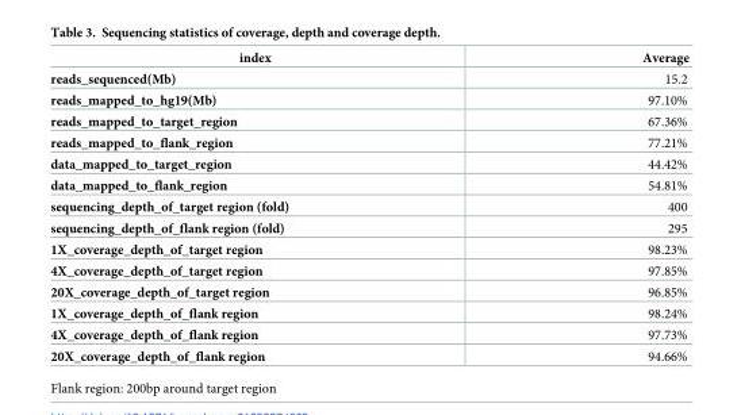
<table><thead><tr><td>index</td><td>Average</td></tr></thead><tbody><tr><td>reads_sequenced(Mb)</td><td>15.2</td></tr><tr><td>reads_mapped_to_hg19(Mb)</td><td>97.10%</td></tr><tr><td>reads_mapped_to_target_region</td><td>67.36%</td></tr><tr><td>reads_mapped_to_flank_region</td><td>77.21%</td></tr><tr><td>data_mapped_to_target_region</td><td>44.42%</td></tr><tr><td>data_mapped_to_flank_region</td><td>54.81%</td></tr><tr><td>sequencing_depth_of_target region (fold)</td><td>400</td></tr><tr><td>sequencing_depth_of_flank region (fold)</td><td>295</td></tr><tr><td>1X_coverage_depth_of_target region</td><td>98.23%</td></tr><tr><td>4X_coverage_depth_of_target region</td><td>97.85%</td></tr><tr><td>20X_coverage_depth_of_target region</td><td>96.85%</td></tr><tr><td>1X_coverage_depth_of_flank region</td><td>98.24%</td></tr><tr><td>4X_coverage_depth_of_flank region</td><td>97.73%</td></tr><tr><td>20X_coverage_depth_of_flank region</td><td>94.66%</td></tr></tbody></table>